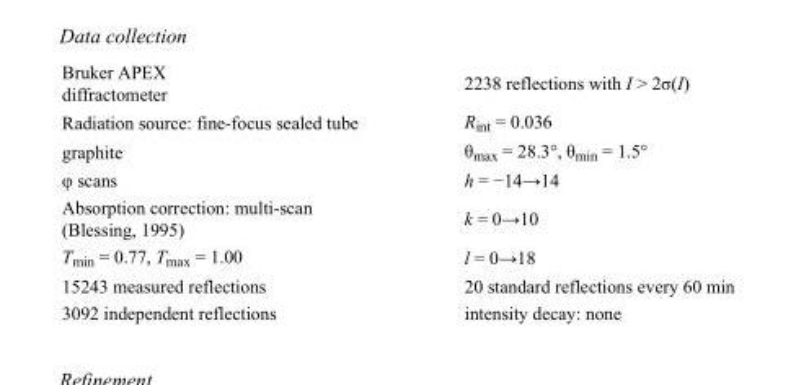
<table><tbody><tr><td>Bruker APEX diffractometer</td><td>2238 reflections with I &gt; 2σ(I)</td></tr><tr><td>Radiation source: fine-focus sealed tube</td><td>R<sub>int</sub> = 0.036</td></tr><tr><td>graphite</td><td>θ<sub>max</sub> = 28.3°, θ<sub>min</sub> = 1.5°</td></tr><tr><td>φ scans</td><td>h = −14→14</td></tr><tr><td>Absorption correction: multi-scan (Blessing, 1995)</td><td>k = 0→10</td></tr><tr><td>T<sub>min</sub> = 0.77, T<sub>max</sub> = 1.00</td><td>l = 0→18</td></tr><tr><td>15243 measured reflections</td><td>20 standard reflections every 60 min</td></tr><tr><td>3092 independent reflections</td><td>intensity decay: none</td></tr></tbody></table>